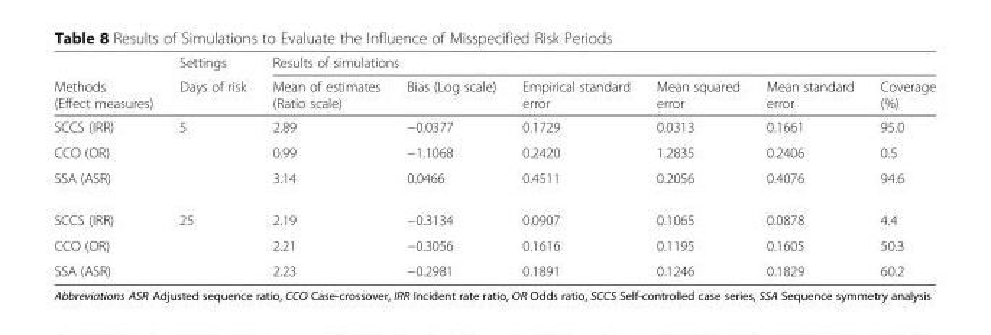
<table><thead><tr><td rowspan="2">Methods (Effect measures)</td><td rowspan="2">Settings Days of risk</td><td colspan="6">Results of simulations</td></tr><tr><td>Mean of estimates (Ratio scale)</td><td>Bias (Log scale)</td><td>Empirical standard error</td><td>Mean squared error</td><td>Mean standard error</td><td>Coverage (%)</td></tr></thead><tbody><tr><td>SCCS (IRR)</td><td>5</td><td>2.89</td><td>−0.0377</td><td>0.1729</td><td>0.0313</td><td>0.1661</td><td>95.0</td></tr><tr><td>CCO (OR)</td><td></td><td>0.99</td><td>−1.1068</td><td>0.2420</td><td>1.2835</td><td>0.2406</td><td>0.5</td></tr><tr><td>SSA (ASR)</td><td></td><td>3.14</td><td>0.0466</td><td>0.4511</td><td>0.2056</td><td>0.4076</td><td>94.6</td></tr><tr><td>SCCS (IRR)</td><td>25</td><td>2.19</td><td>−0.3134</td><td>0.0907</td><td>0.1065</td><td>0.0878</td><td>4.4</td></tr><tr><td>CCO (OR)</td><td></td><td>2.21</td><td>−0.3056</td><td>0.1616</td><td>0.1195</td><td>0.1605</td><td>50.3</td></tr><tr><td>SSA (ASR)</td><td></td><td>2.23</td><td>−0.2981</td><td>0.1891</td><td>0.1246</td><td>0.1829</td><td>60.2</td></tr></tbody></table>